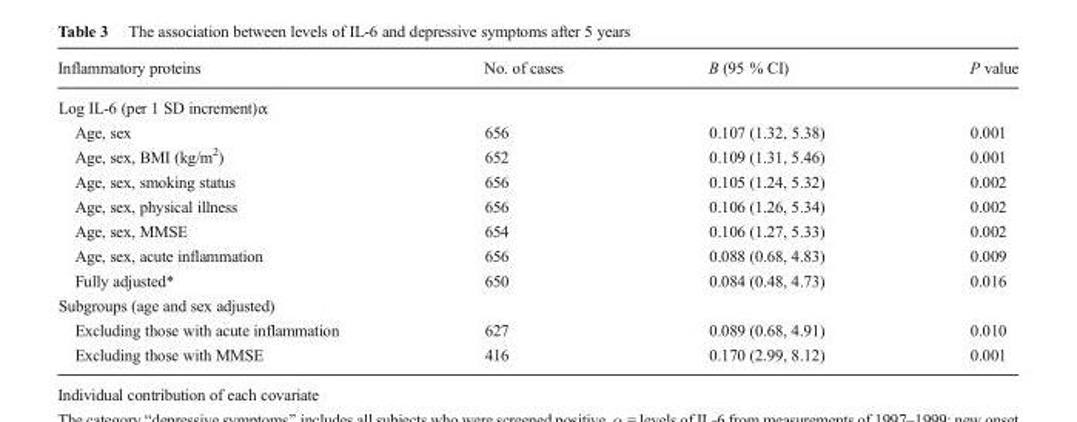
<table><thead><tr><td>Inflammatory proteins</td><td>No. of cases</td><td>B (95 % CI)</td><td>P value</td></tr></thead><tbody><tr><td colspan="4">Log IL-6 (per 1 SD increment)α</td></tr><tr><td>Age, sex</td><td>656</td><td>0.107 (1.32, 5.38)</td><td>0.001</td></tr><tr><td>Age, sex, BMI (kg/m<sup>2</sup>)</td><td>652</td><td>0.109 (1.31, 5.46)</td><td>0.001</td></tr><tr><td>Age, sex, smoking status</td><td>656</td><td>0.105 (1.24, 5.32)</td><td>0.002</td></tr><tr><td>Age, sex, physical illness</td><td>656</td><td>0.106 (1.26, 5.34)</td><td>0.002</td></tr><tr><td>Age, sex, MMSE</td><td>654</td><td>0.106 (1.27, 5.33)</td><td>0.002</td></tr><tr><td>Age, sex, acute inflammation</td><td>656</td><td>0.088 (0.68, 4.83)</td><td>0.009</td></tr><tr><td>Fully adjusted*</td><td>650</td><td>0.084 (0.48, 4.73)</td><td>0.016</td></tr><tr><td colspan="4">Subgroups (age and sex adjusted)</td></tr><tr><td>Excluding those with acute inflammation</td><td>627</td><td>0.089 (0.68, 4.91)</td><td>0.010</td></tr><tr><td>Excluding those with MMSE</td><td>416</td><td>0.170 (2.99, 8.12)</td><td>0.001</td></tr></tbody></table>